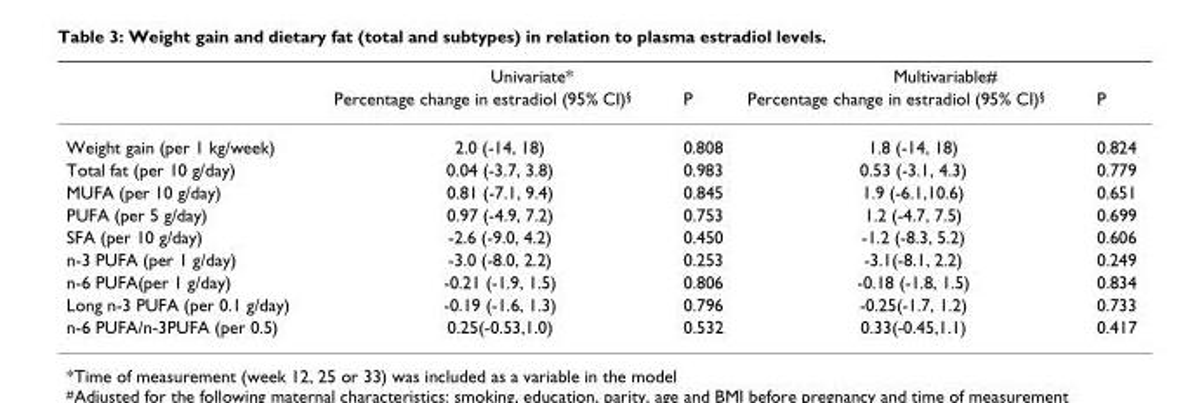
<table><thead><tr><td rowspan="2"></td><td colspan="2">Univariate*</td><td colspan="2">Multivariable#</td></tr><tr><td>Percentage change in estradiol (95% CI)<sup>§</sup></td><td>P</td><td>Percentage change in estradiol (95% CI)<sup>§</sup></td><td>P</td></tr></thead><tbody><tr><td>Weight gain (per 1 kg/week)</td><td>2.0 (-14, 18)</td><td>0.808</td><td>1.8 (-14, 18)</td><td>0.824</td></tr><tr><td>Total fat (per 10 g/day)</td><td>0.04 (-3.7, 3.8)</td><td>0.983</td><td>0.53 (-3.1, 4.3)</td><td>0.779</td></tr><tr><td>MUFA (per 10 g/day)</td><td>0.81 (-7.1, 9.4)</td><td>0.845</td><td>1.9 (-6.1,10.6)</td><td>0.651</td></tr><tr><td>PUFA (per 5 g/day)</td><td>0.97 (-4.9, 7.2)</td><td>0.753</td><td>1.2 (-4.7, 7.5)</td><td>0.699</td></tr><tr><td>SFA (per 10 g/day)</td><td>-2.6 (-9.0, 4.2)</td><td>0.450</td><td>-1.2 (-8.3, 5.2)</td><td>0.606</td></tr><tr><td>n-3 PUFA (per 1 g/day)</td><td>-3.0 (-8.0, 2.2)</td><td>0.253</td><td>-3.1(-8.1, 2.2)</td><td>0.249</td></tr><tr><td>n-6 PUFA(per 1 g/day)</td><td>-0.21 (-1.9, 1.5)</td><td>0.806</td><td>-0.18 (-1.8, 1.5)</td><td>0.834</td></tr><tr><td>Long n-3 PUFA (per 0.1 g/day)</td><td>-0.19 (-1.6, 1.3)</td><td>0.796</td><td>-0.25(-1.7, 1.2)</td><td>0.733</td></tr><tr><td>n-6 PUFA/n-3PUFA (per 0.5)</td><td>0.25(-0.53,1.0)</td><td>0.532</td><td>0.33(-0.45,1.1)</td><td>0.417</td></tr></tbody></table>